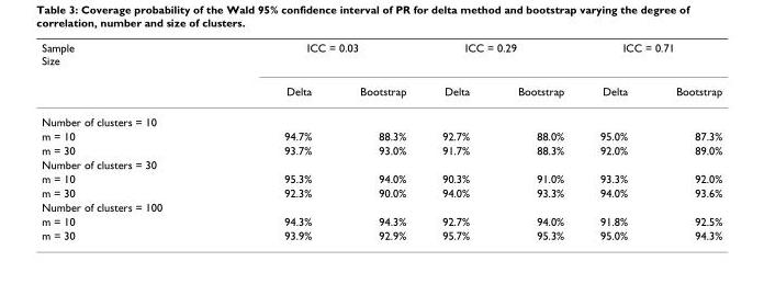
<table><thead><tr><td rowspan="2">Sample Size</td><td colspan="2">ICC = 0.03</td><td colspan="2">ICC = 0.29</td><td colspan="2">ICC = 0.71</td></tr><tr><td>Delta</td><td>Bootstrap</td><td>Delta</td><td>Bootstrap</td><td>Delta</td><td>Bootstrap</td></tr></thead><tbody><tr><td colspan="7">Number of clusters = 10</td></tr><tr><td>m = 10</td><td>94.7%</td><td>88.3%</td><td>92.7%</td><td>88.0%</td><td>95.0%</td><td>87.3%</td></tr><tr><td>m = 30</td><td>93.7%</td><td>93.0%</td><td>91.7%</td><td>88.3%</td><td>92.0%</td><td>89.0%</td></tr><tr><td colspan="7">Number of clusters = 30</td></tr><tr><td>m = 10</td><td>95.3%</td><td>94.0%</td><td>90.3%</td><td>91.0%</td><td>93.3%</td><td>92.0%</td></tr><tr><td>m = 30</td><td>92.3%</td><td>90.0%</td><td>94.0%</td><td>93.3%</td><td>94.0%</td><td>93.6%</td></tr><tr><td colspan="7">Number of clusters = 100</td></tr><tr><td>m = 10</td><td>94.3%</td><td>94.3%</td><td>92.7%</td><td>94.0%</td><td>91.8%</td><td>92.5%</td></tr><tr><td>m = 30</td><td>93.9%</td><td>92.9%</td><td>95.7%</td><td>95.3%</td><td>95.0%</td><td>94.3%</td></tr></tbody></table>